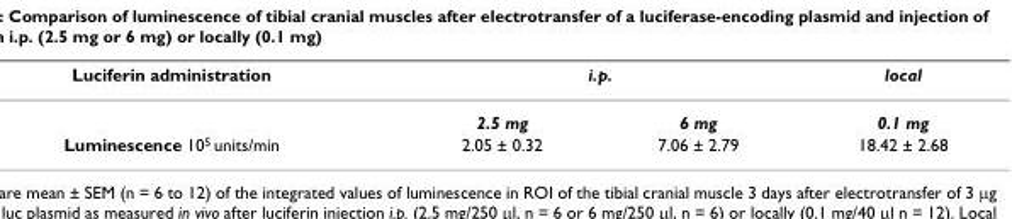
<table><thead><tr><td rowspan="2">Luciferin administration</td><td colspan="2">i.p.</td><td rowspan="2">local 0.1 mg</td></tr><tr><td>2.5 mg</td><td>6 mg</td></tr></thead><tbody><tr><td>Luminescence 105 units/min</td><td>2.05 ± 0.32</td><td>7.06 ± 2.79</td><td>18.42 ± 2.68</td></tr></tbody></table>